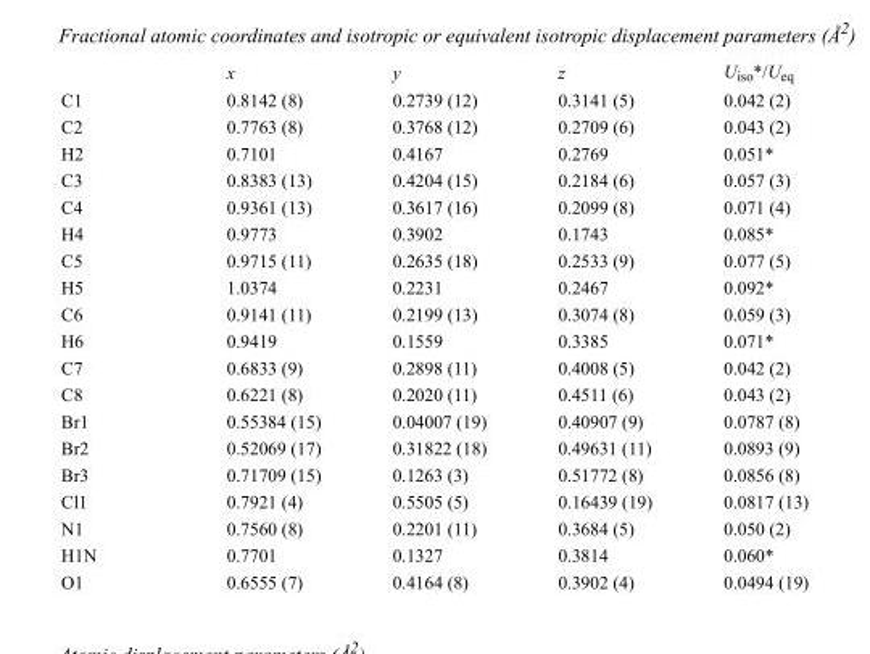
<table><thead><tr><td></td><td>x</td><td>y</td><td>z</td><td>U<sub>iso</sub>*/U<sub>eq</sub></td></tr></thead><tbody><tr><td>C1</td><td>0.8142 (8)</td><td>0.2739 (12)</td><td>0.3141 (5)</td><td>0.042 (2)</td></tr><tr><td>C2</td><td>0.7763 (8)</td><td>0.3768 (12)</td><td>0.2709 (6)</td><td>0.043 (2)</td></tr><tr><td>H2</td><td>0.7101</td><td>0.4167</td><td>0.2769</td><td>0.051*</td></tr><tr><td>C3</td><td>0.8383 (13)</td><td>0.4204 (15)</td><td>0.2184 (6)</td><td>0.057 (3)</td></tr><tr><td>C4</td><td>0.9361 (13)</td><td>0.3617 (16)</td><td>0.2099 (8)</td><td>0.071 (4)</td></tr><tr><td>H4</td><td>0.9773</td><td>0.3902</td><td>0.1743</td><td>0.085*</td></tr><tr><td>C5</td><td>0.9715 (11)</td><td>0.2635 (18)</td><td>0.2533 (9)</td><td>0.077 (5)</td></tr><tr><td>H5</td><td>1.0374</td><td>0.2231</td><td>0.2467</td><td>0.092*</td></tr><tr><td>C6</td><td>0.9141 (11)</td><td>0.2199 (13)</td><td>0.3074 (8)</td><td>0.059 (3)</td></tr><tr><td>H6</td><td>0.9419</td><td>0.1559</td><td>0.3385</td><td>0.071*</td></tr><tr><td>C7</td><td>0.6833 (9)</td><td>0.2898 (11)</td><td>0.4008 (5)</td><td>0.042 (2)</td></tr><tr><td>C8</td><td>0.6221 (8)</td><td>0.2020 (11)</td><td>0.4511 (6)</td><td>0.043 (2)</td></tr><tr><td>Br1</td><td>0.55384 (15)</td><td>0.04007 (19)</td><td>0.40907 (9)</td><td>0.0787 (8)</td></tr><tr><td>Br2</td><td>0.52069 (17)</td><td>0.31822 (18)</td><td>0.49631 (11)</td><td>0.0893 (9)</td></tr><tr><td>Br3</td><td>0.71709 (15)</td><td>0.1263 (3)</td><td>0.51772 (8)</td><td>0.0856 (8)</td></tr><tr><td>Cl1</td><td>0.7921 (4)</td><td>0.5505 (5)</td><td>0.16439 (19)</td><td>0.0817 (13)</td></tr><tr><td>N1</td><td>0.7560 (8)</td><td>0.2201 (11)</td><td>0.3684 (5)</td><td>0.050 (2)</td></tr><tr><td>H1N</td><td>0.7701</td><td>0.1327</td><td>0.3814</td><td>0.060*</td></tr><tr><td>O1</td><td>0.6555 (7)</td><td>0.4164 (8)</td><td>0.3902 (4)</td><td>0.0494 (19)</td></tr></tbody></table>